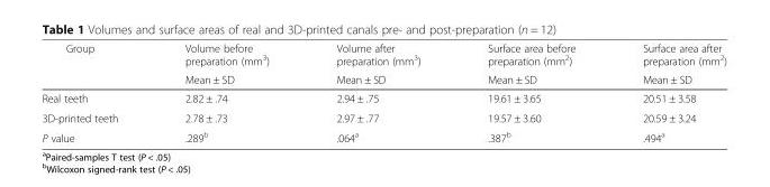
<table><thead><tr><td rowspan="2">Group</td><td rowspan="2">Volume before preparation (mm<sup>3</sup>) Mean ± SD</td><td rowspan="2">Volume after preparation (mm<sup>3</sup>) Mean ± SD</td><td rowspan="2">Surface area before preparation (mm<sup>2</sup>) Mean ± SD</td><td rowspan="2">Surface area after preparation (mm<sup>2</sup>) Mean ± SD</td></tr><tr></tr></thead><tbody><tr><td>Real teeth</td><td>2.82 ± .74</td><td>2.94 ± .75</td><td>19.61 ± 3.65</td><td>20.51 ± 3.58</td></tr><tr><td>3D-printed teeth</td><td>2.78 ± .73</td><td>2.97 ± .77</td><td>19.57 ± 3.60</td><td>20.59 ± 3.24</td></tr><tr><td>P value</td><td>.289<sup>b</sup></td><td>.064<sup>a</sup></td><td>.387<sup>b</sup></td><td>.494<sup>a</sup></td></tr></tbody></table>